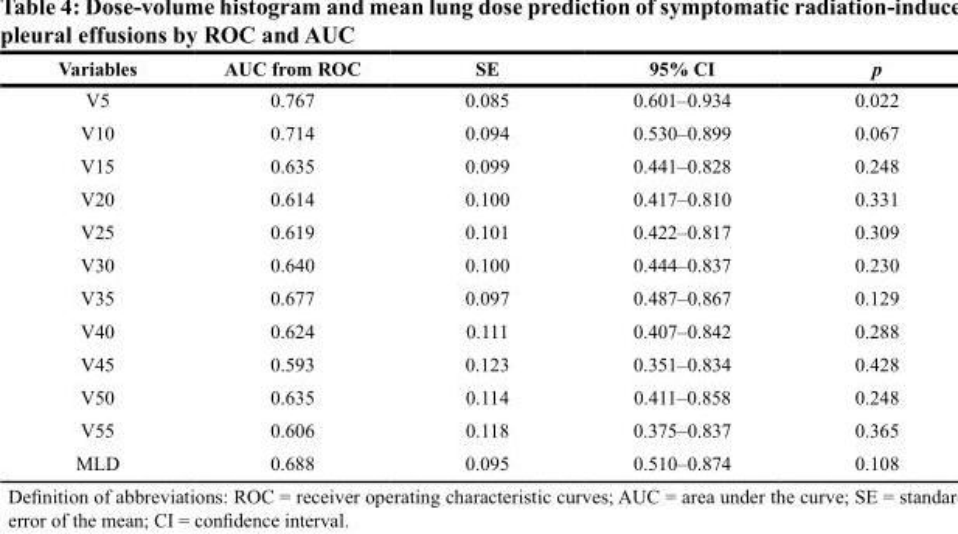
<table><thead><tr><td>Variables</td><td>AUC from ROC</td><td>SE</td><td>95% CI</td><td>p</td></tr></thead><tbody><tr><td>V5</td><td>0.767</td><td>0.085</td><td>0.601–0.934</td><td>0.022</td></tr><tr><td>V10</td><td>0.714</td><td>0.094</td><td>0.530–0.899</td><td>0.067</td></tr><tr><td>V15</td><td>0.635</td><td>0.099</td><td>0.441–0.828</td><td>0.248</td></tr><tr><td>V20</td><td>0.614</td><td>0.100</td><td>0.417–0.810</td><td>0.331</td></tr><tr><td>V25</td><td>0.619</td><td>0.101</td><td>0.422–0.817</td><td>0.309</td></tr><tr><td>V30</td><td>0.640</td><td>0.100</td><td>0.444–0.837</td><td>0.230</td></tr><tr><td>V35</td><td>0.677</td><td>0.097</td><td>0.487–0.867</td><td>0.129</td></tr><tr><td>V40</td><td>0.624</td><td>0.111</td><td>0.407–0.842</td><td>0.288</td></tr><tr><td>V45</td><td>0.593</td><td>0.123</td><td>0.351–0.834</td><td>0.428</td></tr><tr><td>V50</td><td>0.635</td><td>0.114</td><td>0.411–0.858</td><td>0.248</td></tr><tr><td>V55</td><td>0.606</td><td>0.118</td><td>0.375–0.837</td><td>0.365</td></tr><tr><td>MLD</td><td>0.688</td><td>0.095</td><td>0.510–0.874</td><td>0.108</td></tr></tbody></table>